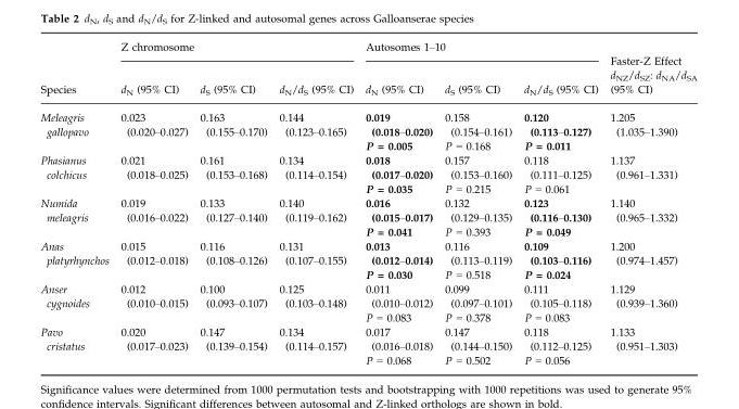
<table><thead><tr><td rowspan="2">Species</td><td colspan="3">Z chromosome</td><td colspan="3">Autosomes 1–10</td><td rowspan="2">Faster-Z Effect d<sub>NZ</sub>/d<sub>SZ</sub>: d<sub>NA</sub>/d<sub>SA</sub> (95% CI)</td></tr><tr><td>d<sub>N</sub> (95% CI)</td><td>d<sub>S</sub> (95% CI)</td><td>d<sub>N</sub>/d<sub>S</sub> (95% CI)</td><td>d<sub>N</sub> (95% CI)</td><td>d<sub>S</sub> (95% CI)</td><td>d<sub>N</sub>/d<sub>S</sub> (95% CI)</td></tr></thead><tbody><tr><td>Meleagris gallopavo</td><td>0.023 (0.020–0.027)</td><td>0.163 (0.155–0.170)</td><td>0.144 (0.123–0.165)</td><td>0.019 (0.018–0.020) P = 0.005</td><td>0.158 (0.154–0.161) P = 0.168</td><td>0.120 (0.113–0.127) P = 0.011</td><td>1.205 (1.035–1.390)</td></tr><tr><td>Phasianus colchicus</td><td>0.021 (0.018–0.025)</td><td>0.161 (0.153–0.168)</td><td>0.134 (0.114–0.154)</td><td>0.018 (0.017–0.020) P = 0.035</td><td>0.157 (0.153–0.160) P = 0.215</td><td>0.118 (0.111–0.125) P = 0.061</td><td>1.137 (0.961–1.331)</td></tr><tr><td>Numida meleagris</td><td>0.019 (0.016–0.022)</td><td>0.133 (0.127–0.140)</td><td>0.140 (0.119–0.162)</td><td>0.016 (0.015–0.017) P = 0.041</td><td>0.132 (0.129–0.135) P = 0.393</td><td>0.123 (0.116–0.130) P = 0.049</td><td>1.140 (0.965–1.332)</td></tr><tr><td>Anas platyrhynchos</td><td>0.015 (0.012–0.018)</td><td>0.116 (0.108–0.126)</td><td>0.131 (0.107–0.155)</td><td>0.013 (0.012–0.014) P = 0.030</td><td>0.116 (0.113–0.119) P = 0.518</td><td>0.109 (0.103–0.116) P = 0.024</td><td>1.200 (0.974–1.457)</td></tr><tr><td>Anser cygnoides</td><td>0.012 (0.010–0.015)</td><td>0.100 (0.093–0.107)</td><td>0.125 (0.103–0.148)</td><td>0.011 (0.010–0.012) P = 0.083</td><td>0.099 (0.097–0.101) P = 0.378</td><td>0.111 (0.105–0.118) P = 0.083</td><td>1.129 (0.939–1.360)</td></tr><tr><td>Pavo cristatus</td><td>0.020 (0.017–0.023)</td><td>0.147 (0.139–0.154)</td><td>0.134 (0.114–0.157)</td><td>0.017 (0.016–0.018) P = 0.068</td><td>0.147 (0.144–0.150) P = 0.502</td><td>0.118 (0.112–0.125) P = 0.056</td><td>1.133 (0.951–1.303)</td></tr></tbody></table>